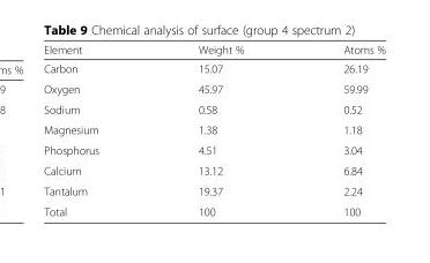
<table><thead><tr><td>Element</td><td>Weight %</td><td>Atoms %</td></tr></thead><tbody><tr><td>Carbon</td><td>15.07</td><td>26.19</td></tr><tr><td>Oxygen</td><td>45.97</td><td>59.99</td></tr><tr><td>Sodium</td><td>0.58</td><td>0.52</td></tr><tr><td>Magnesium</td><td>1.38</td><td>1.18</td></tr><tr><td>Phosphorus</td><td>4.51</td><td>3.04</td></tr><tr><td>Calcium</td><td>13.12</td><td>6.84</td></tr><tr><td>Tantalum</td><td>19.37</td><td>2.24</td></tr><tr><td>Total</td><td>100</td><td>100</td></tr></tbody></table>